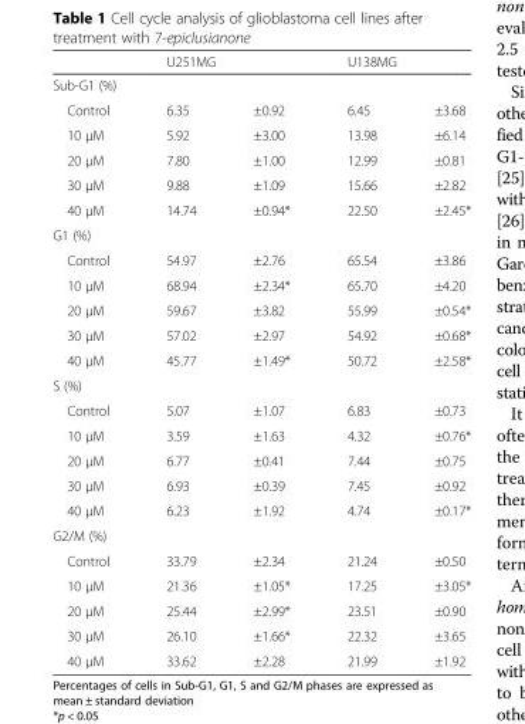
<table><thead><tr><td></td><td colspan="2">U251MG</td><td colspan="2">U138MG</td></tr><tr><td colspan="5">Sub-G1 (%)</td></tr><tr><td>Control</td><td>6.35</td><td>±0.92</td><td>6.45</td><td>±3.68</td></tr></thead><tbody><tr><td>10 μM</td><td>5.92</td><td>±3.00</td><td>13.98</td><td>±6.14</td></tr><tr><td>20 μM</td><td>7.80</td><td>±1.00</td><td>12.99</td><td>±0.81</td></tr><tr><td>30 μM</td><td>9.88</td><td>±1.09</td><td>15.66</td><td>±2.82</td></tr><tr><td>40 μM</td><td>14.74</td><td>±0.94*</td><td>22.50</td><td>±2.45*</td></tr><tr><td colspan="5">G1 (%)</td></tr><tr><td>Control</td><td>54.97</td><td>±2.76</td><td>65.54</td><td>±3.86</td></tr><tr><td>10 μM</td><td>68.94</td><td>±2.34*</td><td>65.70</td><td>±4.20</td></tr><tr><td>20 μM</td><td>59.67</td><td>±3.82</td><td>55.99</td><td>±0.54*</td></tr><tr><td>30 μM</td><td>57.02</td><td>±2.97</td><td>54.92</td><td>±0.68*</td></tr><tr><td>40 μM</td><td>45.77</td><td>±1.49*</td><td>50.72</td><td>±2.58*</td></tr><tr><td colspan="5">S (%)</td></tr><tr><td>Control</td><td>5.07</td><td>±1.07</td><td>6.83</td><td>±0.73</td></tr><tr><td>10 μM</td><td>3.59</td><td>±1.63</td><td>4.32</td><td>±0.76*</td></tr><tr><td>20 μM</td><td>6.77</td><td>±0.41</td><td>7.44</td><td>±0.75</td></tr><tr><td>30 μM</td><td>6.93</td><td>±0.39</td><td>7.45</td><td>±0.92</td></tr><tr><td>40 μM</td><td>6.23</td><td>±1.92</td><td>4.74</td><td>±0.17*</td></tr><tr><td colspan="5">G2/M (%)</td></tr><tr><td>Control</td><td>33.79</td><td>±2.34</td><td>21.24</td><td>±0.50</td></tr><tr><td>10 μM</td><td>21.36</td><td>±1.05*</td><td>17.25</td><td>±3.05*</td></tr><tr><td>20 μM</td><td>25.44</td><td>±2.99*</td><td>23.51</td><td>±0.90</td></tr><tr><td>30 μM</td><td>26.10</td><td>±1.66*</td><td>22.32</td><td>±3.65</td></tr><tr><td>40 μM</td><td>33.62</td><td>±2.28</td><td>21.99</td><td>±1.92</td></tr></tbody></table>